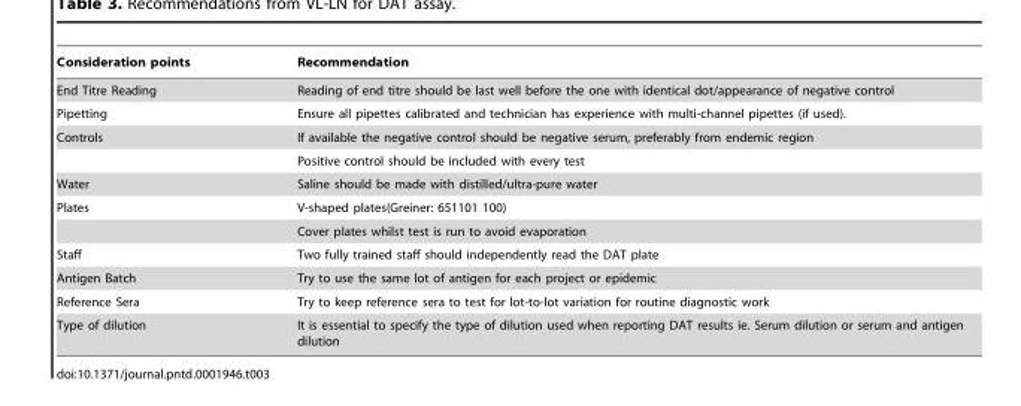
<table><thead><tr><td>Consideration points</td><td>Recommendation</td></tr></thead><tbody><tr><td>End Titre Reading</td><td>Reading of end titre should be last well before the one with identical dot/appearance of negative control</td></tr><tr><td>Pipetting</td><td>Ensure all pipettes calibrated and technician has experience with multi-channel pipettes (if used).</td></tr><tr><td rowspan="2">Controls</td><td>If available the negative control should be negative serum, preferably from endemic region</td></tr><tr><td>Positive control should be included with every test</td></tr><tr><td>Water</td><td>Saline should be made with distilled/ultra-pure water</td></tr><tr><td rowspan="2">Plates</td><td>V-shaped plates(Greiner: 651101 100)</td></tr><tr><td>Cover plates whilst test is run to avoid evaporation</td></tr><tr><td>Staff</td><td>Two fully trained staff should independently read the DAT plate</td></tr><tr><td>Antigen Batch</td><td>Try to use the same lot of antigen for each project or epidemic</td></tr><tr><td>Reference Sera</td><td>Try to keep reference sera to test for lot-to-lot variation for routine diagnostic work</td></tr><tr><td>Type of dilution</td><td>It is essential to specify the type of dilution used when reporting DAT results ie. Serum dilution or serum and antigen dilution</td></tr></tbody></table>